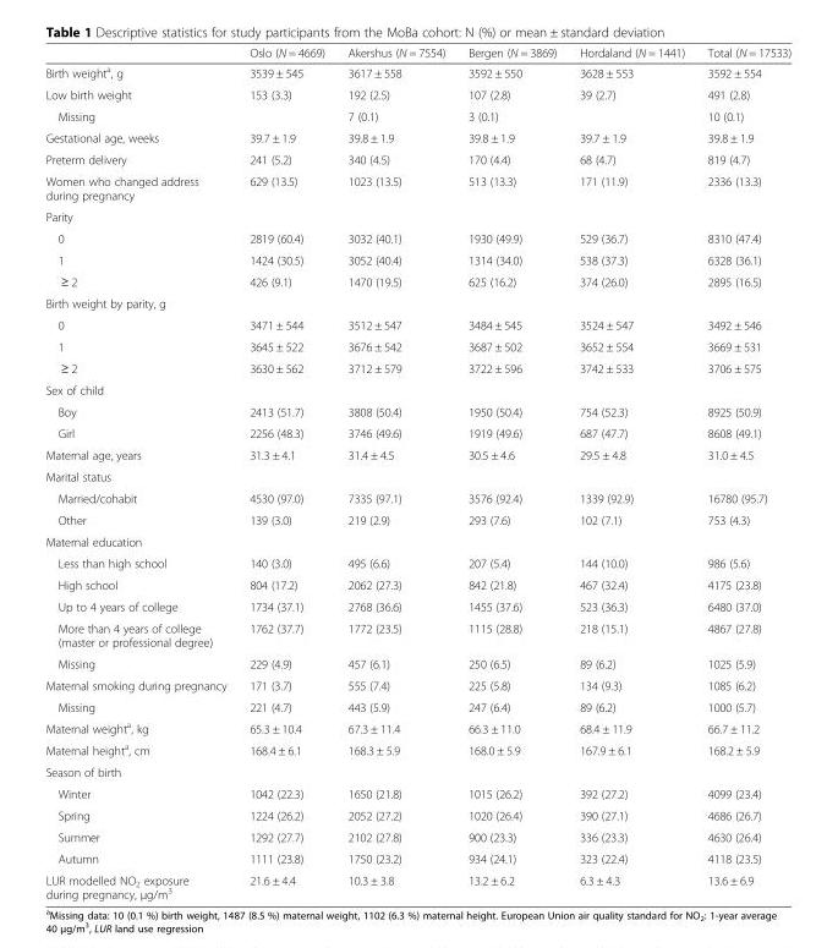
<table><thead><tr><td></td><td>Oslo (N = 4669)</td><td>Akershus (N = 7554)</td><td>Bergen (N = 3869)</td><td>Hordaland (N = 1441)</td><td>Total (N = 17533)</td></tr></thead><tbody><tr><td>Birth weight<sup>a</sup>, g</td><td>3539 ± 545</td><td>3617 ± 558</td><td>3592 ± 550</td><td>3628 ± 553</td><td>3592 ± 554</td></tr><tr><td>Low birth weight</td><td>153 (3.3)</td><td>192 (2.5)</td><td>107 (2.8)</td><td>39 (2.7)</td><td>491 (2.8)</td></tr><tr><td>Missing</td><td></td><td>7 (0.1)</td><td>3 (0.1)</td><td></td><td>10 (0.1)</td></tr><tr><td>Gestational age, weeks</td><td>39.7 ± 1.9</td><td>39.8 ± 1.9</td><td>39.8 ± 1.9</td><td>39.7 ± 1.9</td><td>39.8 ± 1.9</td></tr><tr><td>Preterm delivery</td><td>241 (5.2)</td><td>340 (4.5)</td><td>170 (4.4)</td><td>68 (4.7)</td><td>819 (4.7)</td></tr><tr><td>Women who changed address during pregnancy</td><td>629 (13.5)</td><td>1023 (13.5)</td><td>513 (13.3)</td><td>171 (11.9)</td><td>2336 (13.3)</td></tr><tr><td colspan="6">Parity</td></tr><tr><td>0</td><td>2819 (60.4)</td><td>3032 (40.1)</td><td>1930 (49.9)</td><td>529 (36.7)</td><td>8310 (47.4)</td></tr><tr><td>1</td><td>1424 (30.5)</td><td>3052 (40.4)</td><td>1314 (34.0)</td><td>538 (37.3)</td><td>6328 (36.1)</td></tr><tr><td>≥ 2</td><td>426 (9.1)</td><td>1470 (19.5)</td><td>625 (16.2)</td><td>374 (26.0)</td><td>2895 (16.5)</td></tr><tr><td colspan="6">Birth weight by parity, g</td></tr><tr><td>0</td><td>3471 ± 544</td><td>3512 ± 547</td><td>3484 ± 545</td><td>3524 ± 547</td><td>3492 ± 546</td></tr><tr><td>1</td><td>3645 ± 522</td><td>3676 ± 542</td><td>3687 ± 502</td><td>3652 ± 554</td><td>3669 ± 531</td></tr><tr><td>≥ 2</td><td>3630 ± 562</td><td>3712 ± 579</td><td>3722 ± 596</td><td>3742 ± 533</td><td>3706 ± 575</td></tr><tr><td colspan="6">Sex of child</td></tr><tr><td>Boy</td><td>2413 (51.7)</td><td>3808 (50.4)</td><td>1950 (50.4)</td><td>754 (52.3)</td><td>8925 (50.9)</td></tr><tr><td>Girl</td><td>2256 (48.3)</td><td>3746 (49.6)</td><td>1919 (49.6)</td><td>687 (47.7)</td><td>8608 (49.1)</td></tr><tr><td>Maternal age, years</td><td>31.3 ± 4.1</td><td>31.4 ± 4.5</td><td>30.5 ± 4.6</td><td>29.5 ± 4.8</td><td>31.0 ± 4.5</td></tr><tr><td colspan="6">Marital status</td></tr><tr><td>Married/cohabit</td><td>4530 (97.0)</td><td>7335 (97.1)</td><td>3576 (92.4)</td><td>1339 (92.9)</td><td>16780 (95.7)</td></tr><tr><td>Other</td><td>139 (3.0)</td><td>219 (2.9)</td><td>293 (7.6)</td><td>102 (7.1)</td><td>753 (4.3)</td></tr><tr><td colspan="6">Maternal education</td></tr><tr><td>Less than high school</td><td>140 (3.0)</td><td>495 (6.6)</td><td>207 (5.4)</td><td>144 (10.0)</td><td>986 (5.6)</td></tr><tr><td>High school</td><td>804 (17.2)</td><td>2062 (27.3)</td><td>842 (21.8)</td><td>467 (32.4)</td><td>4175 (23.8)</td></tr><tr><td>Up to 4 years of college</td><td>1734 (37.1)</td><td>2768 (36.6)</td><td>1455 (37.6)</td><td>523 (36.3)</td><td>6480 (37.0)</td></tr><tr><td>More than 4 years of college (master or professional degree)</td><td>1762 (37.7)</td><td>1772 (23.5)</td><td>1115 (28.8)</td><td>218 (15.1)</td><td>4867 (27.8)</td></tr><tr><td>Missing</td><td>229 (4.9)</td><td>457 (6.1)</td><td>250 (6.5)</td><td>89 (6.2)</td><td>1025 (5.9)</td></tr><tr><td>Maternal smoking during pregnancy</td><td>171 (3.7)</td><td>555 (7.4)</td><td>225 (5.8)</td><td>134 (9.3)</td><td>1085 (6.2)</td></tr><tr><td>Missing</td><td>221 (4.7)</td><td>443 (5.9)</td><td>247 (6.4)</td><td>89 (6.2)</td><td>1000 (5.7)</td></tr><tr><td>Maternal weight<sup>a</sup>, kg</td><td>65.3 ± 10.4</td><td>67.3 ± 11.4</td><td>66.3 ± 11.0</td><td>68.4 ± 11.9</td><td>66.7 ± 11.2</td></tr><tr><td>Maternal height<sup>a</sup>, cm</td><td>168.4 ± 6.1</td><td>168.3 ± 5.9</td><td>168.0 ± 5.9</td><td>167.9 ± 6.1</td><td>168.2 ± 5.9</td></tr><tr><td colspan="6">Season of birth</td></tr><tr><td>Winter</td><td>1042 (22.3)</td><td>1650 (21.8)</td><td>1015 (26.2)</td><td>392 (27.2)</td><td>4099 (23.4)</td></tr><tr><td>Spring</td><td>1224 (26.2)</td><td>2052 (27.2)</td><td>1020 (26.4)</td><td>390 (27.1)</td><td>4686 (26.7)</td></tr><tr><td>Summer</td><td>1292 (27.7)</td><td>2102 (27.8)</td><td>900 (23.3)</td><td>336 (23.3)</td><td>4630 (26.4)</td></tr><tr><td>Autumn</td><td>1111 (23.8)</td><td>1750 (23.2)</td><td>934 (24.1)</td><td>323 (22.4)</td><td>4118 (23.5)</td></tr><tr><td>LUR modelled NO<sub>2</sub> exposure during pregnancy, μg/m<sup>3</sup></td><td>21.6 ± 4.4</td><td>10.3 ± 3.8</td><td>13.2 ± 6.2</td><td>6.3 ± 4.3</td><td>13.6 ± 6.9</td></tr></tbody></table>